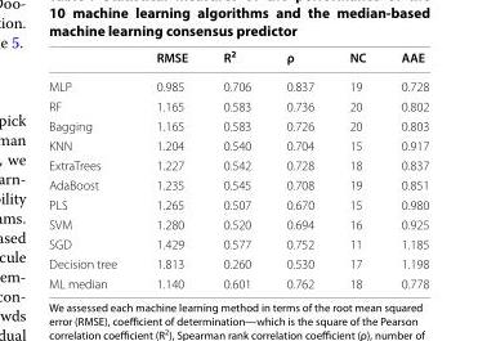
<table><thead><tr><td></td><td>RMSE</td><td>R<sup>2</sup></td><td>ρ</td><td>NC</td><td>AAE</td></tr></thead><tbody><tr><td>MLP</td><td>0.985</td><td>0.706</td><td>0.837</td><td>19</td><td>0.728</td></tr><tr><td>RF</td><td>1.165</td><td>0.583</td><td>0.736</td><td>20</td><td>0.802</td></tr><tr><td>Bagging</td><td>1.165</td><td>0.583</td><td>0.726</td><td>20</td><td>0.803</td></tr><tr><td>KNN</td><td>1.204</td><td>0.540</td><td>0.704</td><td>15</td><td>0.917</td></tr><tr><td>ExtraTrees</td><td>1.227</td><td>0.542</td><td>0.728</td><td>18</td><td>0.837</td></tr><tr><td>AdaBoost</td><td>1.235</td><td>0.545</td><td>0.708</td><td>19</td><td>0.851</td></tr><tr><td>PLS</td><td>1.265</td><td>0.507</td><td>0.670</td><td>15</td><td>0.980</td></tr><tr><td>SVM</td><td>1.280</td><td>0.520</td><td>0.694</td><td>16</td><td>0.925</td></tr><tr><td>SGD</td><td>1.429</td><td>0.577</td><td>0.752</td><td>11</td><td>1.185</td></tr><tr><td>Decision tree</td><td>1.813</td><td>0.260</td><td>0.530</td><td>17</td><td>1.198</td></tr><tr><td>ML median</td><td>1.140</td><td>0.601</td><td>0.762</td><td>18</td><td>0.778</td></tr></tbody></table>